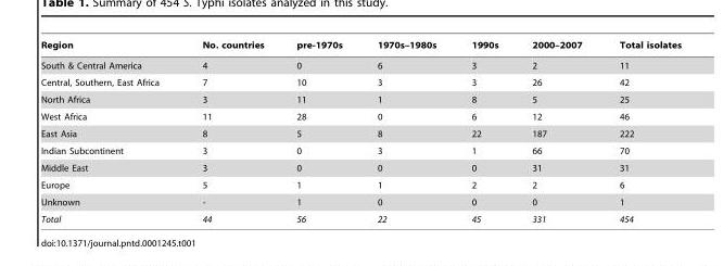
<table><thead><tr><td>Region</td><td>No. countries</td><td>pre-1970s</td><td>1970s–1980s</td><td>1990s</td><td>2000–2007</td><td>Total isolates</td></tr></thead><tbody><tr><td>South &amp; Central America</td><td>4</td><td>0</td><td>6</td><td>3</td><td>2</td><td>11</td></tr><tr><td>Central, Southern, East Africa</td><td>7</td><td>10</td><td>3</td><td>3</td><td>26</td><td>42</td></tr><tr><td>North Africa</td><td>3</td><td>11</td><td>1</td><td>8</td><td>5</td><td>25</td></tr><tr><td>West Africa</td><td>11</td><td>28</td><td>0</td><td>6</td><td>12</td><td>46</td></tr><tr><td>East Asia</td><td>8</td><td>5</td><td>8</td><td>22</td><td>187</td><td>222</td></tr><tr><td>Indian Subcontinent</td><td>3</td><td>0</td><td>3</td><td>1</td><td>66</td><td>70</td></tr><tr><td>Middle East</td><td>3</td><td>0</td><td>0</td><td>0</td><td>31</td><td>31</td></tr><tr><td>Europe</td><td>5</td><td>1</td><td>1</td><td>2</td><td>2</td><td>6</td></tr><tr><td>Unknown</td><td>-</td><td>1</td><td>0</td><td>0</td><td>0</td><td>1</td></tr><tr><td>Total</td><td>44</td><td>56</td><td>22</td><td>45</td><td>331</td><td>454</td></tr></tbody></table>